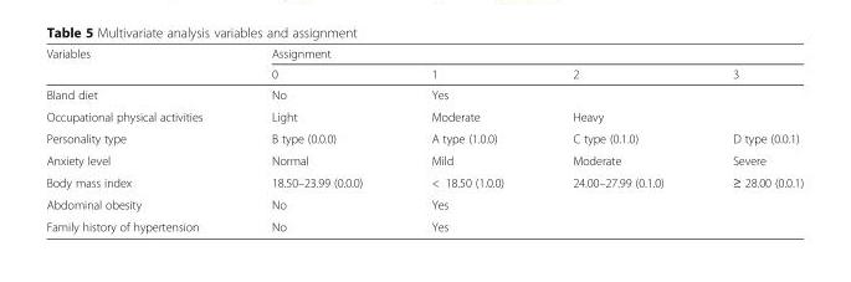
<table><thead><tr><td rowspan="2">Variables</td><td colspan="4">Assignment</td></tr><tr><td>0</td><td>1</td><td>2</td><td>3</td></tr></thead><tbody><tr><td>Bland diet</td><td>No</td><td>Yes</td><td></td><td></td></tr><tr><td>Occupational physical activities</td><td>Light</td><td>Moderate</td><td>Heavy</td><td></td></tr><tr><td>Personality type</td><td>B type (0.0.0)</td><td>A type (1.0.0)</td><td>C type (0.1.0)</td><td>D type (0.0.1)</td></tr><tr><td>Anxiety level</td><td>Normal</td><td>Mild</td><td>Moderate</td><td>Severe</td></tr><tr><td>Body mass index</td><td>18.50–23.99 (0.0.0)</td><td>&lt; 18.50 (1.0.0)</td><td>24.00–27.99 (0.1.0)</td><td>≥ 28.00 (0.0.1)</td></tr><tr><td>Abdominal obesity</td><td>No</td><td>Yes</td><td></td><td></td></tr><tr><td>Family history of hypertension</td><td>No</td><td>Yes</td><td></td><td></td></tr></tbody></table>